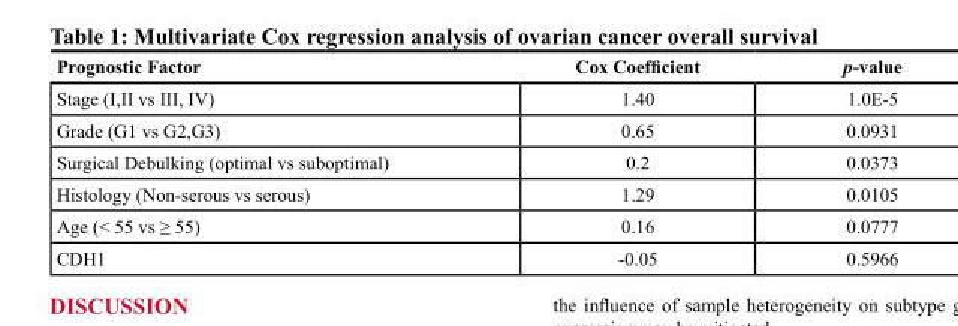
<table><thead><tr><td>Prognostic Factor</td><td>Cox Coefficient</td><td>p-value</td></tr></thead><tbody><tr><td>Stage (I,II vs III, IV)</td><td>1.40</td><td>1.0E-5</td></tr><tr><td>Grade (G1 vs G2,G3)</td><td>0.65</td><td>0.0931</td></tr><tr><td>Surgical Debulking (optimal vs suboptimal)</td><td>0.2</td><td>0.0373</td></tr><tr><td>Histology (Non-serous vs serous)</td><td>1.29</td><td>0.0105</td></tr><tr><td>Age (&lt; 55 vs ≥ 55)</td><td>0.16</td><td>0.0777</td></tr><tr><td>CDH1</td><td>-0.05</td><td>0.5966</td></tr></tbody></table>